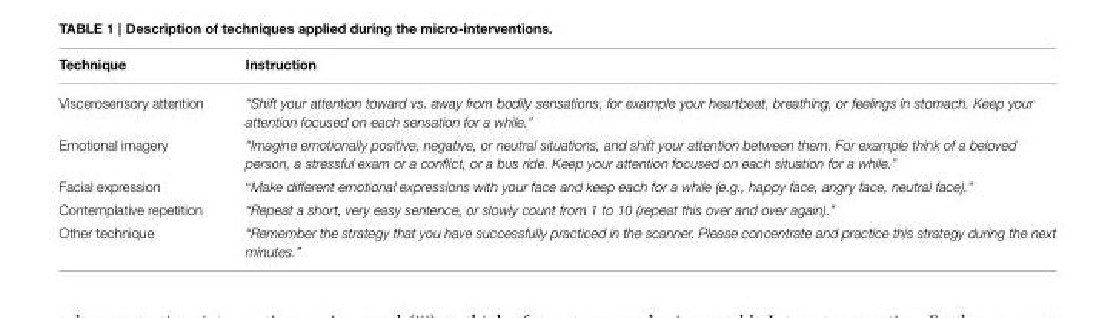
<table><thead><tr><td>Technique</td><td>Instruction</td></tr></thead><tbody><tr><td>Viscerosensory attention</td><td>“Shift your attention toward vs. away from bodily sensations, for example your heartbeat, breathing, or feelings in stomach. Keep your attention focused on each sensation for a while.”</td></tr><tr><td>Emotional imagery</td><td>“Imagine emotionally positive, negative, or neutral situations, and shift your attention between them. For example think of a beloved person, a stressful exam or a conflict, or a bus ride. Keep your attention focused on each situation for a while.”</td></tr><tr><td>Facial expression</td><td>“Make different emotional expressions with your face and keep each for a while (e.g., happy face, angry face, neutral face).”</td></tr><tr><td>Contemplative repetition</td><td>“Repeat a short, very easy sentence, or slowly count from 1 to 10 (repeat this over and over again).”</td></tr><tr><td>Other technique</td><td>“Remember the strategy that you have successfully practiced in the scanner. Please concentrate and practice this strategy during the next minutes.”</td></tr></tbody></table>